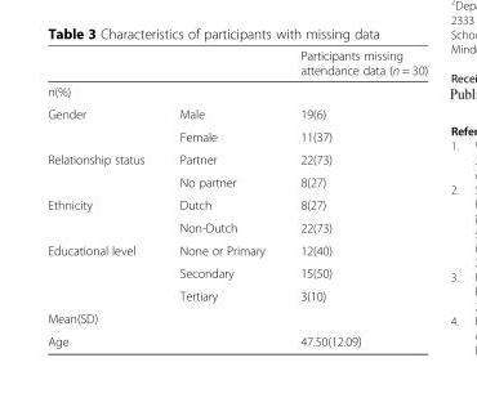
<table><thead><tr><td></td><td></td><td>Participants missing attendance data (n = 30)</td></tr></thead><tbody><tr><td colspan="3">n(%)</td></tr><tr><td rowspan="2">Gender</td><td>Male</td><td>19(6)</td></tr><tr><td>Female</td><td>11(37)</td></tr><tr><td rowspan="2">Relationship status</td><td>Partner</td><td>22(73)</td></tr><tr><td>No partner</td><td>8(27)</td></tr><tr><td rowspan="2">Ethnicity</td><td>Dutch</td><td>8(27)</td></tr><tr><td>Non-Dutch</td><td>22(73)</td></tr><tr><td rowspan="3">Educational level</td><td>None or Primary</td><td>12(40)</td></tr><tr><td>Secondary</td><td>15(50)</td></tr><tr><td>Tertiary</td><td>3(10)</td></tr><tr><td colspan="3">Mean(SD)</td></tr><tr><td>Age</td><td></td><td>47.50(12.09)</td></tr></tbody></table>